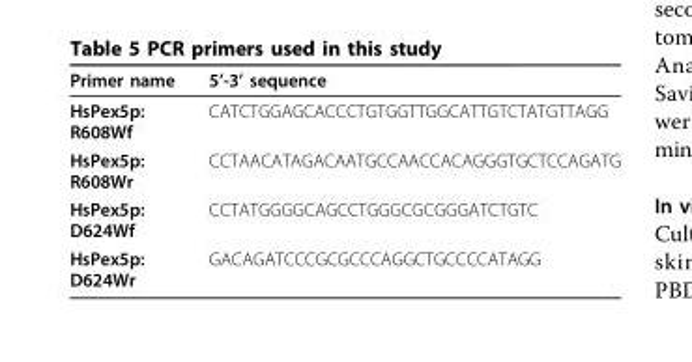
<table><thead><tr><td>Primer name</td><td>5’-3’ sequence</td></tr></thead><tbody><tr><td>HsPex5p: R608Wf</td><td>CATCTGGAGCACCCTGTGGTTGGCATTGTCTATGTTAGG</td></tr><tr><td>HsPex5p: R608Wr</td><td>CCTAACATAGACAATGCCAACCACAGGGTGCTCCAGATG</td></tr><tr><td>HsPex5p: D624Wf</td><td>CCTATGGGGCAGCCTGGGCGCGGGATCTGTC</td></tr><tr><td>HsPex5p: D624Wr</td><td>GACAGATCCCGCGCCCAGGCTGCCCCATAGG</td></tr></tbody></table>